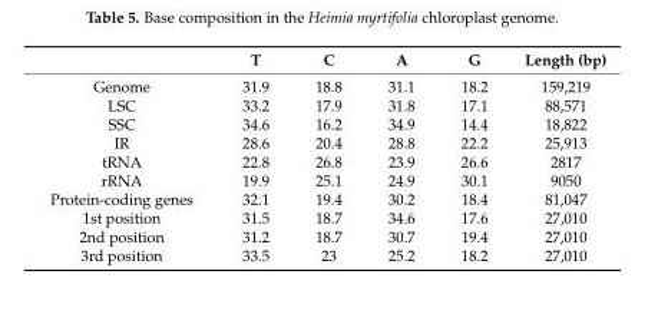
<table><thead><tr><td></td><td>T</td><td>C</td><td>A</td><td>G</td><td>Length (bp)</td></tr></thead><tbody><tr><td>Genome</td><td>31.9</td><td>18.8</td><td>31.1</td><td>18.2</td><td>159,219</td></tr><tr><td>LSC</td><td>33.2</td><td>17.9</td><td>31.8</td><td>17.1</td><td>88,571</td></tr><tr><td>SSC</td><td>34.6</td><td>16.2</td><td>34.9</td><td>14.4</td><td>18,822</td></tr><tr><td>IR</td><td>28.6</td><td>20.4</td><td>28.8</td><td>22.2</td><td>25,913</td></tr><tr><td>tRNA</td><td>22.8</td><td>26.8</td><td>23.9</td><td>26.6</td><td>2817</td></tr><tr><td>rRNA</td><td>19.9</td><td>25.1</td><td>24.9</td><td>30.1</td><td>9050</td></tr><tr><td>Protein-coding genes</td><td>32.1</td><td>19.4</td><td>30.2</td><td>18.4</td><td>81,047</td></tr><tr><td>1st position</td><td>31.5</td><td>18.7</td><td>34.6</td><td>17.6</td><td>27,010</td></tr><tr><td>2nd position</td><td>31.2</td><td>18.7</td><td>30.7</td><td>19.4</td><td>27,010</td></tr><tr><td>3rd position</td><td>33.5</td><td>23</td><td>25.2</td><td>18.2</td><td>27,010</td></tr></tbody></table>